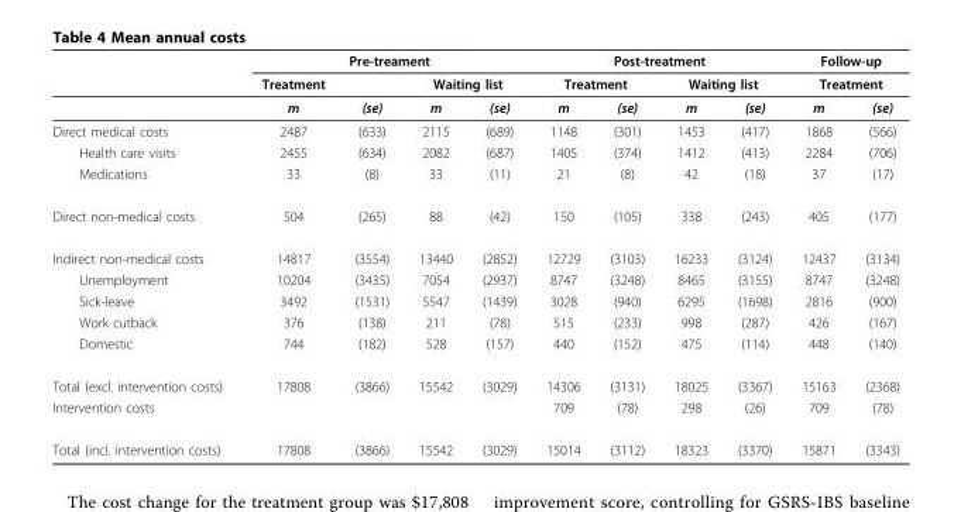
<table><thead><tr><td rowspan="3"></td><td colspan="4">Pre-treament</td><td colspan="4">Post-treatment</td><td rowspan="2" colspan="2">Follow-up Treatment</td></tr><tr><td rowspan="2">Treatment m</td><td rowspan="2">(se)</td><td colspan="2">Waiting list</td><td colspan="2">Treatment</td><td colspan="2">Waiting list</td></tr><tr><td>m</td><td>(se)</td><td>m</td><td>(se)</td><td>m</td><td>(se)</td><td>m</td><td>(se)</td></tr></thead><tbody><tr><td>Direct medical costs</td><td>2487</td><td>(633)</td><td>2115</td><td>(689)</td><td>1148</td><td>(301)</td><td>1453</td><td>(417)</td><td>1868</td><td>(566)</td></tr><tr><td>Health care visits</td><td>2455</td><td>(634)</td><td>2082</td><td>(687)</td><td>1405</td><td>(374)</td><td>1412</td><td>(413)</td><td>2284</td><td>(706)</td></tr><tr><td>Medications</td><td>33</td><td>(8)</td><td>33</td><td>(11)</td><td>21</td><td>(8)</td><td>42</td><td>(18)</td><td>37</td><td>(17)</td></tr><tr><td>Direct non-medical costs</td><td>504</td><td>(265)</td><td>88</td><td>(42)</td><td>150</td><td>(105)</td><td>338</td><td>(243)</td><td>405</td><td>(177)</td></tr><tr><td>Indirect non-medical costs</td><td>14817</td><td>(3554)</td><td>13440</td><td>(2852)</td><td>12729</td><td>(3103)</td><td>16233</td><td>(3124)</td><td>12437</td><td>(3134)</td></tr><tr><td>Unemployment</td><td>10204</td><td>(3435)</td><td>7054</td><td>(2937)</td><td>8747</td><td>(3248)</td><td>8465</td><td>(3155)</td><td>8747</td><td>(3248)</td></tr><tr><td>Sick-leave</td><td>3492</td><td>(1531)</td><td>5547</td><td>(1439)</td><td>3028</td><td>(940)</td><td>6295</td><td>(1698)</td><td>2816</td><td>(900)</td></tr><tr><td>Work cutback</td><td>376</td><td>(138)</td><td>211</td><td>(78)</td><td>515</td><td>(233)</td><td>998</td><td>(287)</td><td>426</td><td>(167)</td></tr><tr><td>Domestic</td><td>744</td><td>(182)</td><td>528</td><td>(157)</td><td>440</td><td>(152)</td><td>475</td><td>(114)</td><td>448</td><td>(140)</td></tr><tr><td>Total (excl. intervention costs)</td><td>17808</td><td>(3866)</td><td>15542</td><td>(3029)</td><td>14306</td><td>(3131)</td><td>18025</td><td>(3367)</td><td>15163</td><td>(2368)</td></tr><tr><td>Intervention costs</td><td></td><td></td><td></td><td></td><td>709</td><td>(78)</td><td>298</td><td>(26)</td><td>709</td><td>(78)</td></tr><tr><td>Total (incl. intervention costs)</td><td>17808</td><td>(3866)</td><td>15542</td><td>(3029)</td><td>15014</td><td>(3112)</td><td>18323</td><td>(3370)</td><td>15871</td><td>(3343)</td></tr></tbody></table>